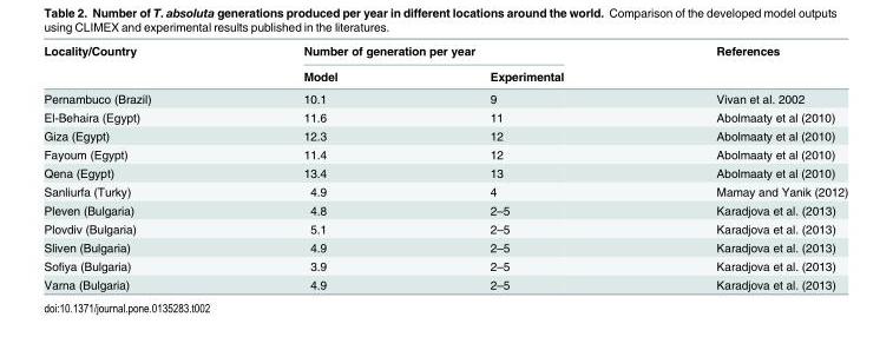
<table><thead><tr><td rowspan="2">Locality/Country</td><td colspan="2">Number of generation per year</td><td rowspan="2">References</td></tr><tr><td>Model</td><td>Experimental</td></tr></thead><tbody><tr><td>Pernambuco (Brazil)</td><td>10.1</td><td>9</td><td>Vivan et al. 2002</td></tr><tr><td>El-Behaira (Egypt)</td><td>11.6</td><td>11</td><td>Abolmaaty et al (2010)</td></tr><tr><td>Giza (Egypt)</td><td>12.3</td><td>12</td><td>Abolmaaty et al (2010)</td></tr><tr><td>Fayoum (Egypt)</td><td>11.4</td><td>12</td><td>Abolmaaty et al (2010)</td></tr><tr><td>Qena (Egypt)</td><td>13.4</td><td>13</td><td>Abolmaaty et al (2010)</td></tr><tr><td>Sanliurfa (Turky)</td><td>4.9</td><td>4</td><td>Mamay and Yanik (2012)</td></tr><tr><td>Pleven (Bulgaria)</td><td>4.8</td><td>2–5</td><td>Karadjova et al. (2013)</td></tr><tr><td>Plovdiv (Bulgaria)</td><td>5.1</td><td>2–5</td><td>Karadjova et al. (2013)</td></tr><tr><td>Sliven (Bulgaria)</td><td>4.9</td><td>2–5</td><td>Karadjova et al. (2013)</td></tr><tr><td>Sofiya (Bulgaria)</td><td>3.9</td><td>2–5</td><td>Karadjova et al. (2013)</td></tr><tr><td>Varna (Bulgaria)</td><td>4.9</td><td>2–5</td><td>Karadjova et al. (2013)</td></tr></tbody></table>